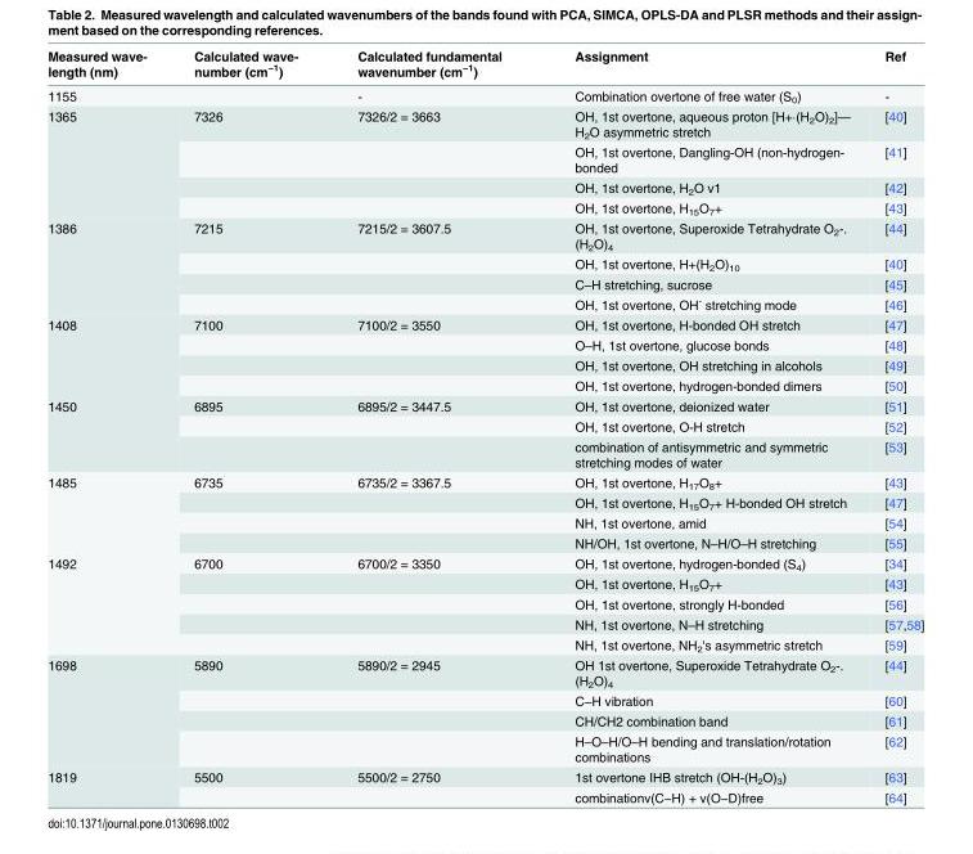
<table><thead><tr><td>Measured wave- length (nm)</td><td>Calculated wave- number (cm<sup>−1</sup>)</td><td>Calculated fundamental wavenumber (cm<sup>−1</sup>)</td><td>Assignment</td><td>Ref</td></tr></thead><tbody><tr><td>1155</td><td></td><td>-</td><td>Combination overtone of free water (S<sub>0</sub>)</td><td>-</td></tr><tr><td rowspan="4">1365</td><td>7326</td><td>7326/2 = 3663</td><td>OH, 1st overtone, aqueous proton [H+·(H<sub>2</sub>O)<sub>2</sub>]— H<sub>2</sub>O asymmetric stretch</td><td>[40]</td></tr><tr><td></td><td></td><td>OH, 1st overtone, Dangling-OH (non-hydrogen- bonded</td><td>[41]</td></tr><tr><td></td><td></td><td>OH, 1st overtone, H<sub>2</sub>O v1</td><td>[42]</td></tr><tr><td></td><td></td><td>OH, 1st overtone, H<sub>15</sub>O<sub>7</sub>+</td><td>[43]</td></tr><tr><td rowspan="4">1386</td><td>7215</td><td>7215/2 = 3607.5</td><td>OH, 1st overtone, Superoxide Tetrahydrate O<sub>2</sub>-. (H<sub>2</sub>O)<sub>4</sub></td><td>[44]</td></tr><tr><td></td><td></td><td>OH, 1st overtone, H+(H<sub>2</sub>O)<sub>10</sub></td><td>[40]</td></tr><tr><td></td><td></td><td>C–H stretching, sucrose</td><td>[45]</td></tr><tr><td></td><td></td><td>OH, 1st overtone, OH<sup>-</sup> stretching mode</td><td>[46]</td></tr><tr><td rowspan="4">1408</td><td>7100</td><td>7100/2 = 3550</td><td>OH, 1st overtone, H-bonded OH stretch</td><td>[47]</td></tr><tr><td></td><td></td><td>O–H, 1st overtone, glucose bonds</td><td>[48]</td></tr><tr><td></td><td></td><td>OH, 1st overtone, OH stretching in alcohols</td><td>[49]</td></tr><tr><td></td><td></td><td>OH, 1st overtone, hydrogen-bonded dimers</td><td>[50]</td></tr><tr><td rowspan="3">1450</td><td>6895</td><td>6895/2 = 3447.5</td><td>OH, 1st overtone, deionized water</td><td>[51]</td></tr><tr><td></td><td></td><td>OH, 1st overtone, O-H stretch</td><td>[52]</td></tr><tr><td></td><td></td><td>combination of antisymmetric and symmetric stretching modes of water</td><td>[53]</td></tr><tr><td rowspan="4">1485</td><td>6735</td><td>6735/2 = 3367.5</td><td>OH, 1st overtone, H<sub>17</sub>O<sub>8</sub>+</td><td>[43]</td></tr><tr><td></td><td></td><td>OH, 1st overtone, H<sub>15</sub>O<sub>7</sub>+ H-bonded OH stretch</td><td>[47]</td></tr><tr><td></td><td></td><td>NH, 1st overtone, amid</td><td>[54]</td></tr><tr><td></td><td></td><td>NH/OH, 1st overtone, N–H/O–H stretching</td><td>[55]</td></tr><tr><td rowspan="5">1492</td><td>6700</td><td>6700/2 = 3350</td><td>OH, 1st overtone, hydrogen-bonded (S<sub>4</sub>)</td><td>[34]</td></tr><tr><td></td><td></td><td>OH, 1st overtone, H<sub>15</sub>O<sub>7</sub>+</td><td>[43]</td></tr><tr><td></td><td></td><td>OH, 1st overtone, strongly H-bonded</td><td>[56]</td></tr><tr><td></td><td></td><td>NH, 1st overtone, N–H stretching</td><td>[57,58]</td></tr><tr><td></td><td></td><td>NH, 1st overtone, NH<sub>2</sub>&#x27;s asymmetric stretch</td><td>[59]</td></tr><tr><td rowspan="4">1698</td><td>5890</td><td>5890/2 = 2945</td><td>OH 1st overtone, Superoxide Tetrahydrate O<sub>2</sub>-. (H<sub>2</sub>O)<sub>4</sub></td><td>[44]</td></tr><tr><td></td><td></td><td>C−H vibration</td><td>[60]</td></tr><tr><td></td><td></td><td>CH/CH2 combination band</td><td>[61]</td></tr><tr><td></td><td></td><td>H–O–H/O–H bending and translation/rotation combinations</td><td>[62]</td></tr><tr><td rowspan="2">1819</td><td>5500</td><td>5500/2 = 2750</td><td>1st overtone IHB stretch (OH-(H<sub>2</sub>O)<sub>3</sub>)</td><td>[63]</td></tr><tr><td></td><td></td><td>combinationν(C−H) + ν(O−D)free</td><td>[64]</td></tr></tbody></table>